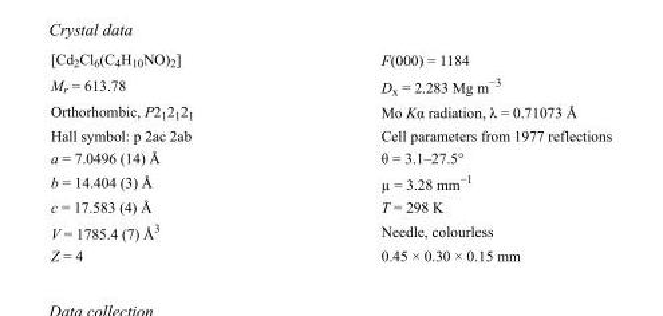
<table><tbody><tr><td>[Cd<sub>2</sub>Cl<sub>6</sub>(C<sub>4</sub>H<sub>10</sub>NO)<sub>2</sub>]</td><td>F(000) = 1184</td></tr><tr><td>M<sub>r</sub> = 613.78</td><td>D<sub>x</sub> = 2.283 Mg m<sup>−3</sup></td></tr><tr><td>Orthorhombic, P2<sub>1</sub>2<sub>1</sub>2<sub>1</sub></td><td>Mo Kα radiation, λ = 0.71073 Å</td></tr><tr><td>Hall symbol: p 2ac 2ab</td><td>Cell parameters from 1977 reflections</td></tr><tr><td>a = 7.0496 (14) Å</td><td>θ = 3.1–27.5°</td></tr><tr><td>b = 14.404 (3) Å</td><td>µ = 3.28 mm<sup>−1</sup></td></tr><tr><td>c = 17.583 (4) Å</td><td>T = 298 K</td></tr><tr><td>V = 1785.4 (7) Å<sup>3</sup></td><td>Needle, colourless</td></tr><tr><td>Z = 4</td><td>0.45 × 0.30 × 0.15 mm</td></tr></tbody></table>